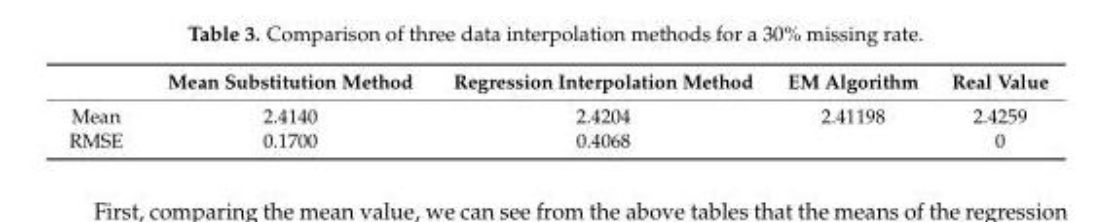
<table><thead><tr><td></td><td>Mean Substitution Method</td><td>Regression Interpolation Method</td><td>EM Algorithm</td><td>Real Value</td></tr></thead><tbody><tr><td>Mean</td><td>2.4140</td><td>2.4204</td><td>2.41198</td><td>2.4259</td></tr><tr><td>RMSE</td><td>0.1700</td><td>0.4068</td><td></td><td>0</td></tr></tbody></table>